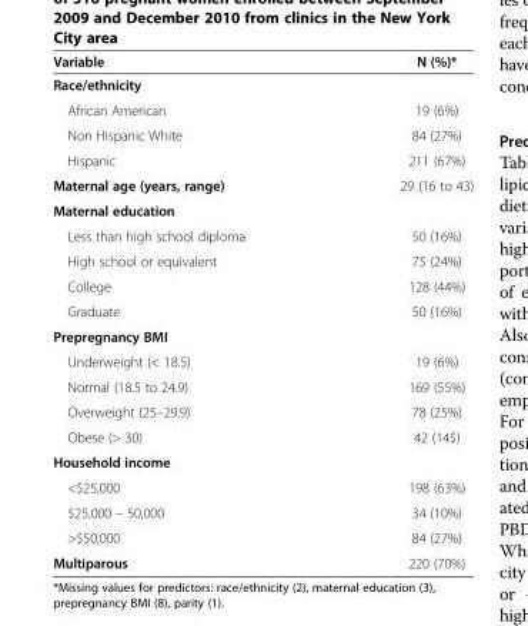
<table><thead><tr><td>Variable</td><td>N (%)*</td></tr></thead><tbody><tr><td colspan="2">Race/ethnicity</td></tr><tr><td>African American</td><td>19 (6%)</td></tr><tr><td>Non Hispanic White</td><td>84 (27%)</td></tr><tr><td>Hispanic</td><td>211 (67%)</td></tr><tr><td>Maternal age (years, range)</td><td>29 (16 to 43)</td></tr><tr><td colspan="2">Maternal education</td></tr><tr><td>Less than high school diploma</td><td>50 (16%)</td></tr><tr><td>High school or equivalent</td><td>75 (24%)</td></tr><tr><td>College</td><td>128 (44%)</td></tr><tr><td>Graduate</td><td>50 (16%)</td></tr><tr><td colspan="2">Prepregnancy BMI</td></tr><tr><td>Underweight (&lt; 18.5)</td><td>19 (6%)</td></tr><tr><td>Normal (18.5 to 24.9)</td><td>169 (55%)</td></tr><tr><td>Overweight (25–29.9)</td><td>78 (25%)</td></tr><tr><td>Obese (&gt; 30)</td><td>42 (14$)</td></tr><tr><td colspan="2">Household income</td></tr><tr><td>&lt;$25,000</td><td>198 (63%)</td></tr><tr><td>$25,000 – 50,000</td><td>34 (10%)</td></tr><tr><td>&gt;$50,000</td><td>84 (27%)</td></tr><tr><td>Multiparous</td><td>220 (70%)</td></tr></tbody></table>